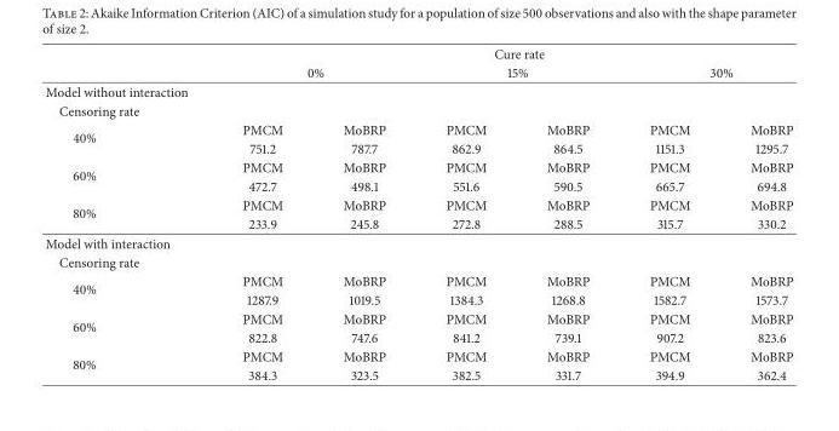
<table><thead><tr><td rowspan="3">Model without interaction</td><td colspan="6">Cure rate</td></tr><tr><td colspan="2">0%</td><td colspan="2">15%</td><td colspan="2">30%</td></tr><tr><td></td><td></td><td></td><td></td><td></td><td></td></tr></thead><tbody><tr><td colspan="7">Censoring rate</td></tr><tr><td rowspan="2">40%</td><td>PMCM</td><td>MoBRP</td><td>PMCM</td><td>MoBRP</td><td>PMCM</td><td>MoBRP</td></tr><tr><td>751.2</td><td>787.7</td><td>862.9</td><td>864.5</td><td>1151.3</td><td>1295.7</td></tr><tr><td rowspan="2">60%</td><td>PMCM</td><td>MoBRP</td><td>PMCM</td><td>MoBRP</td><td>PMCM</td><td>MoBRP</td></tr><tr><td>472.7</td><td>498.1</td><td>551.6</td><td>590.5</td><td>665.7</td><td>694.8</td></tr><tr><td rowspan="2">80%</td><td>PMCM</td><td>MoBRP</td><td>PMCM</td><td>MoBRP</td><td>PMCM</td><td>MoBRP</td></tr><tr><td>233.9</td><td>245.8</td><td>272.8</td><td>288.5</td><td>315.7</td><td>330.2</td></tr><tr><td colspan="7">Model with interaction</td></tr><tr><td colspan="7">Censoring rate</td></tr><tr><td rowspan="2">40%</td><td>PMCM</td><td>MoBRP</td><td>PMCM</td><td>MoBRP</td><td>PMCM</td><td>MoBRP</td></tr><tr><td>1287.9</td><td>1019.5</td><td>1384.3</td><td>1268.8</td><td>1582.7</td><td>1573.7</td></tr><tr><td rowspan="2">60%</td><td>PMCM</td><td>MoBRP</td><td>PMCM</td><td>MoBRP</td><td>PMCM</td><td>MoBRP</td></tr><tr><td>822.8</td><td>747.6</td><td>841.2</td><td>739.1</td><td>907.2</td><td>823.6</td></tr><tr><td rowspan="2">80%</td><td>PMCM</td><td>MoBRP</td><td>PMCM</td><td>MoBRP</td><td>PMCM</td><td>MoBRP</td></tr><tr><td>384.3</td><td>323.5</td><td>382.5</td><td>331.7</td><td>394.9</td><td>362.4</td></tr></tbody></table>